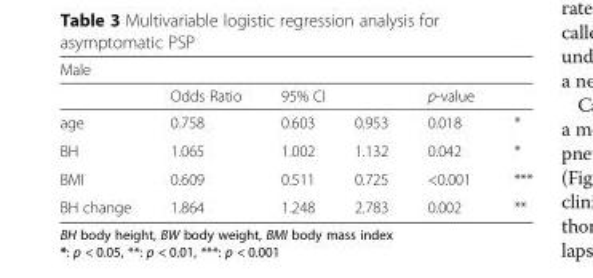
<table><thead><tr><td colspan="6">Male</td></tr><tr><td rowspan="2">age</td><td rowspan="2">Odds Ratio 0.758</td><td colspan="2">95% CI</td><td rowspan="2">p-value 0.018</td><td rowspan="2">*</td></tr><tr><td>0.603</td><td>0.953</td></tr></thead><tbody><tr><td>BH</td><td>1.065</td><td>1.002</td><td>1.132</td><td>0.042</td><td>*</td></tr><tr><td>BMI</td><td>0.609</td><td>0.511</td><td>0.725</td><td>&lt;0.001</td><td>***</td></tr><tr><td>BH change</td><td>1.864</td><td>1.248</td><td>2.783</td><td>0.002</td><td>**</td></tr></tbody></table>